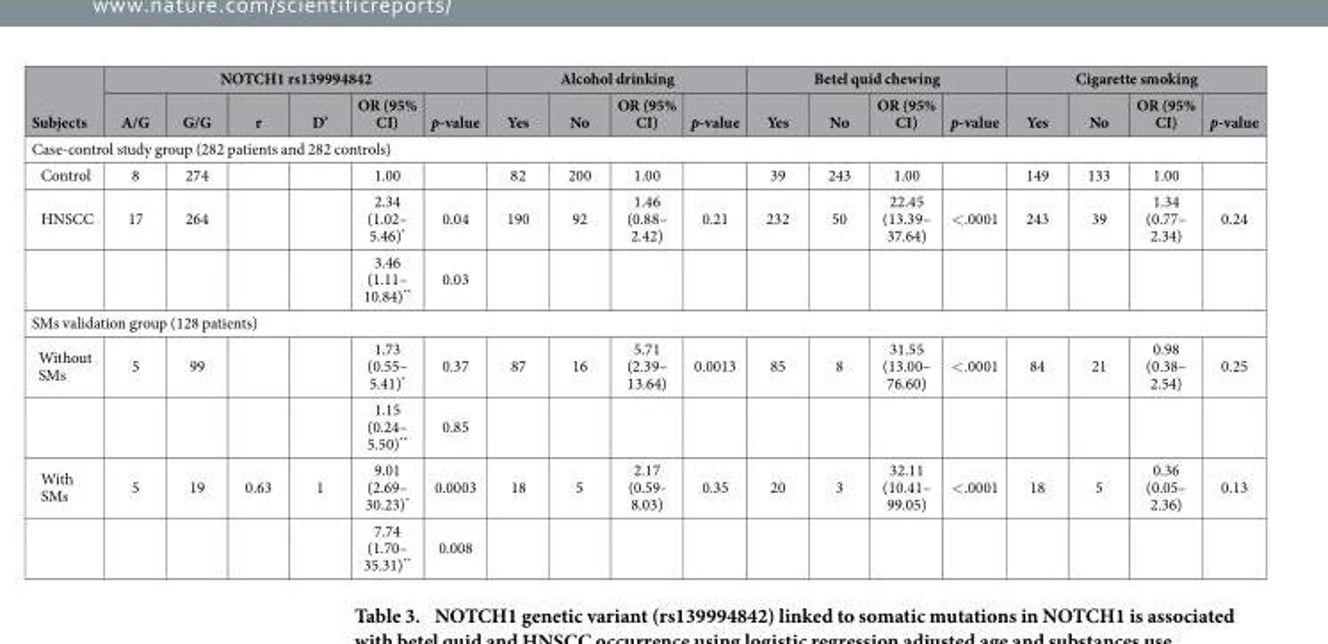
<table><thead><tr><td rowspan="2">Subjects</td><td colspan="6">NOTCH1 rs139994842</td><td colspan="4">Alcohol drinking</td><td colspan="4">Betel quid chewing</td><td colspan="4">Cigarette smoking</td></tr><tr><td>A/G</td><td>G/G</td><td>r</td><td>D’</td><td>OR (95% CI)</td><td>p-value</td><td>Yes</td><td>No</td><td>OR (95% CI)</td><td>p-value</td><td>Yes</td><td>No</td><td>OR (95% CI)</td><td>p-value</td><td>Yes</td><td>No</td><td>OR (95% CI)</td><td>p-value</td></tr></thead><tbody><tr><td colspan="19">Case-control study group (282 patients and 282 controls)</td></tr><tr><td>Control</td><td>8</td><td>274</td><td></td><td></td><td>1.00</td><td></td><td>82</td><td>200</td><td>1.00</td><td></td><td>39</td><td>243</td><td>1.00</td><td></td><td>149</td><td>133</td><td>1.00</td><td></td></tr><tr><td rowspan="2">HNSCC</td><td>17</td><td>264</td><td></td><td></td><td>2.34 (1.02– 5.46)*</td><td>0.04</td><td>190</td><td>92</td><td>1.46 (0.88– 2.42)</td><td>0.21</td><td>232</td><td>50</td><td>22.45 (13.39– 37.64)</td><td>&lt; .0001</td><td>243</td><td>39</td><td>1.34 (0.77– 2.34)</td><td>0.24</td></tr><tr><td></td><td></td><td></td><td></td><td>3.46 (1.11– 10.84)**</td><td>0.03</td><td></td><td></td><td></td><td></td><td></td><td></td><td></td><td></td><td></td><td></td><td></td><td></td></tr><tr><td colspan="19">SMs validation group (128 patients)</td></tr><tr><td rowspan="2">Without SMs</td><td>5</td><td>99</td><td></td><td></td><td>1.73 (0.55– 5.41)*</td><td>0.37</td><td>87</td><td>16</td><td>5.71 (2.39– 13.64)</td><td>0.0013</td><td>85</td><td>8</td><td>31.55 (13.00– 76.60)</td><td>&lt; .0001</td><td>84</td><td>21</td><td>0.98 (0.38– 2.54)</td><td>0.25</td></tr><tr><td></td><td></td><td></td><td></td><td>1.15 (0.24– 5.50)**</td><td>0.85</td><td></td><td></td><td></td><td></td><td></td><td></td><td></td><td></td><td></td><td></td><td></td><td></td></tr><tr><td rowspan="2">With SMs</td><td>5</td><td>19</td><td>0.63</td><td>1</td><td>9.01 (2.69– 30.23)*</td><td>0.0003</td><td>18</td><td>5</td><td>2.17 (0.59- 8.03)</td><td>0.35</td><td>20</td><td>3</td><td>32.11 (10.41– 99.05)</td><td>&lt; .0001</td><td>18</td><td>5</td><td>0.36 (0.05– 2.36)</td><td>0.13</td></tr><tr><td></td><td></td><td></td><td></td><td>7.74 (1.70– 35.31)**</td><td>0.008</td><td></td><td></td><td></td><td></td><td></td><td></td><td></td><td></td><td></td><td></td><td></td><td></td></tr></tbody></table>